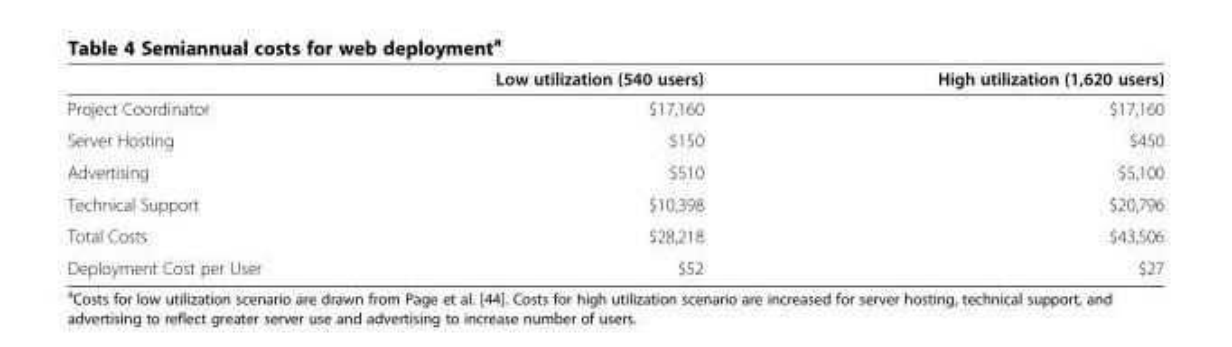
<table><thead><tr><td></td><td>Low utilization (540 users)</td><td>High utilization (1,620 users)</td></tr></thead><tbody><tr><td>Project Coordinator</td><td>$17,160</td><td>$17,160</td></tr><tr><td>Server Hosting</td><td>$150</td><td>$450</td></tr><tr><td>Advertising</td><td>$510</td><td>$5,100</td></tr><tr><td>Technical Support</td><td>$10,398</td><td>$20,796</td></tr><tr><td>Total Costs</td><td>$28,218</td><td>$43,506</td></tr><tr><td>Deployment Cost per User</td><td>$52</td><td>$27</td></tr></tbody></table>